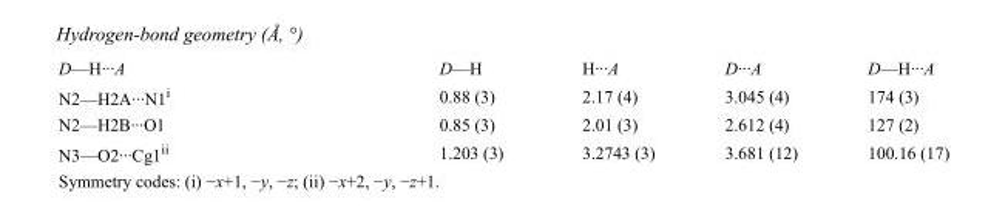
<table><tbody><tr><td>D—H···A</td><td>D—H</td><td>H···A</td><td>D···A</td><td>D—H···A</td></tr><tr><td>N2—H2A···N1<sup>i</sup></td><td>0.88 (3)</td><td>2.17 (4)</td><td>3.045 (4)</td><td>174 (3)</td></tr><tr><td>N2—H2B···O1</td><td>0.85 (3)</td><td>2.01 (3)</td><td>2.612 (4)</td><td>127 (2)</td></tr><tr><td>N3—O2···Cg1<sup>ii</sup></td><td>1.203 (3)</td><td>3.2743 (3)</td><td>3.681 (12)</td><td>100.16 (17)</td></tr></tbody></table>